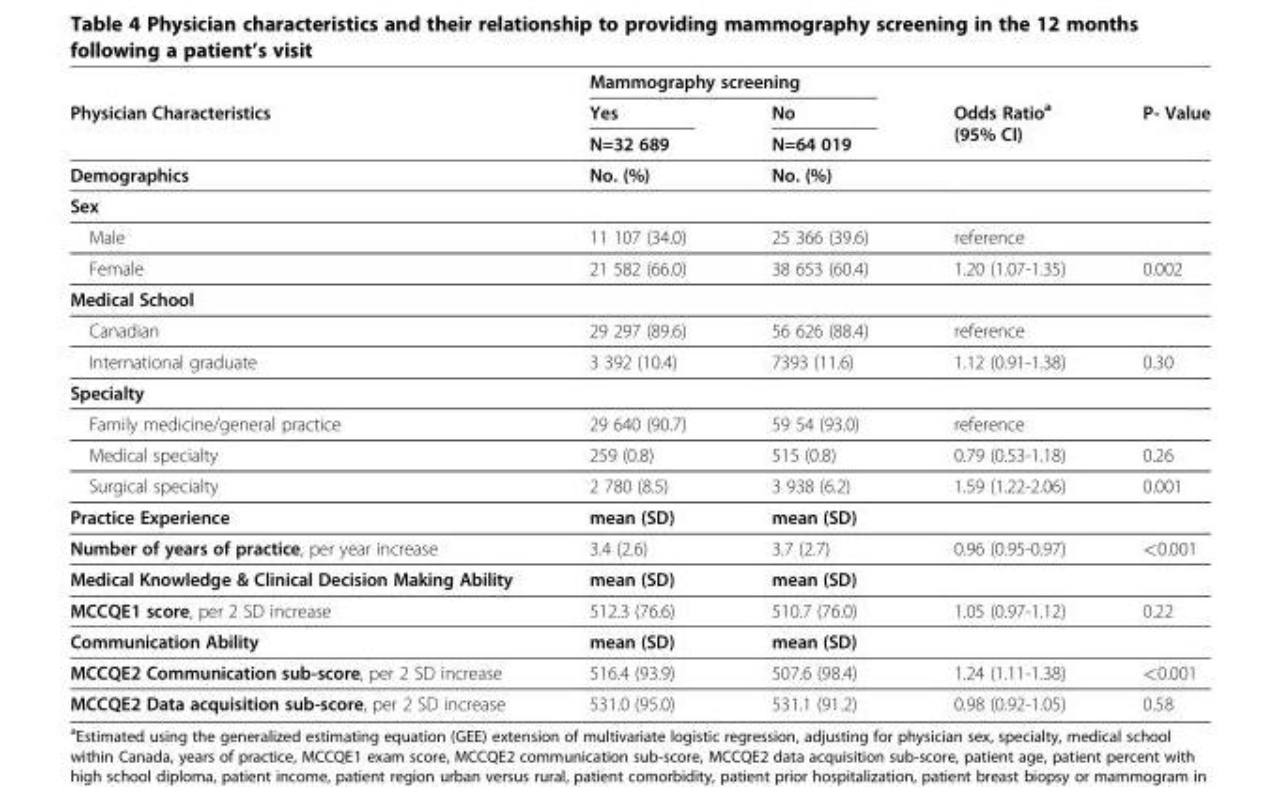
<table><thead><tr><td rowspan="3">Physician Characteristics</td><td colspan="2">Mammography screening</td><td rowspan="3">Odds Ratio<sup>a</sup> (95% CI)</td><td rowspan="3">P- Value</td></tr><tr><td rowspan="2">Yes N=32 689</td><td rowspan="2">No N=64 019</td></tr><tr></tr></thead><tbody><tr><td>Demographics</td><td>No. (%)</td><td>No. (%)</td><td></td><td></td></tr><tr><td colspan="5">Sex</td></tr><tr><td>Male</td><td>11 107 (34.0)</td><td>25 366 (39.6)</td><td>reference</td><td></td></tr><tr><td>Female</td><td>21 582 (66.0)</td><td>38 653 (60.4)</td><td>1.20 (1.07-1.35)</td><td>0.002</td></tr><tr><td colspan="5">Medical School</td></tr><tr><td>Canadian</td><td>29 297 (89.6)</td><td>56 626 (88.4)</td><td>reference</td><td></td></tr><tr><td>International graduate</td><td>3 392 (10.4)</td><td>7393 (11.6)</td><td>1.12 (0.91-1.38)</td><td>0.30</td></tr><tr><td colspan="5">Specialty</td></tr><tr><td>Family medicine/general practice</td><td>29 640 (90.7)</td><td>59 54 (93.0)</td><td>reference</td><td></td></tr><tr><td>Medical specialty</td><td>259 (0.8)</td><td>515 (0.8)</td><td>0.79 (0.53-1.18)</td><td>0.26</td></tr><tr><td>Surgical specialty</td><td>2 780 (8.5)</td><td>3 938 (6.2)</td><td>1.59 (1.22-2.06)</td><td>0.001</td></tr><tr><td>Practice Experience</td><td>mean (SD)</td><td>mean (SD)</td><td></td><td></td></tr><tr><td>Number of years of practice, per year increase</td><td>3.4 (2.6)</td><td>3.7 (2.7)</td><td>0.96 (0.95-0.97)</td><td>&lt;0.001</td></tr><tr><td>Medical Knowledge &amp; Clinical Decision Making Ability</td><td>mean (SD)</td><td>mean (SD)</td><td></td><td></td></tr><tr><td>MCCQE1 score, per 2 SD increase</td><td>512.3 (76.6)</td><td>510.7 (76.0)</td><td>1.05 (0.97-1.12)</td><td>0.22</td></tr><tr><td>Communication Ability</td><td>mean (SD)</td><td>mean (SD)</td><td></td><td></td></tr><tr><td>MCCQE2 Communication sub-score, per 2 SD increase</td><td>516.4 (93.9)</td><td>507.6 (98.4)</td><td>1.24 (1.11-1.38)</td><td>&lt;0.001</td></tr><tr><td>MCCQE2 Data acquisition sub-score, per 2 SD increase</td><td>531.0 (95.0)</td><td>531.1 (91.2)</td><td>0.98 (0.92-1.05)</td><td>0.58</td></tr></tbody></table>